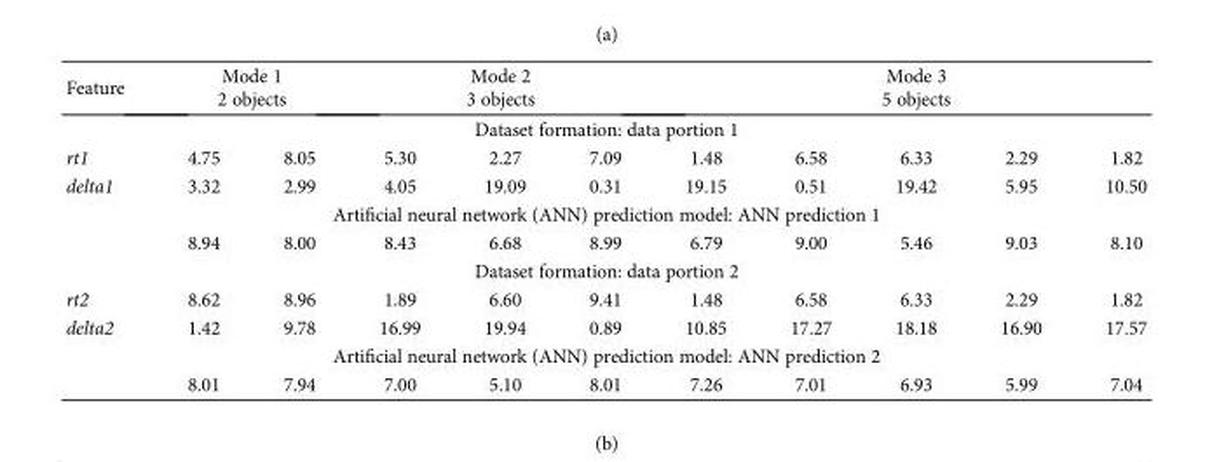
<table><thead><tr><td>Feature</td><td colspan="2">Mode 1 2 objects</td><td colspan="3">Mode 2 3 objects</td><td colspan="5">Mode 3 5 objects</td></tr><tr><td colspan="11">Dataset formation: data portion 1</td></tr><tr><td>rt1</td><td>4.75</td><td>8.05</td><td>5.30</td><td>2.27</td><td>7.09</td><td>1.48</td><td>6.58</td><td>6.33</td><td>2.29</td><td>1.82</td></tr></thead><tbody><tr><td>delta1</td><td>3.32</td><td>2.99</td><td>4.05</td><td>19.09</td><td>0.31</td><td>19.15</td><td>0.51</td><td>19.42</td><td>5.95</td><td>10.50</td></tr><tr><td colspan="11">Artificial neural network (ANN) prediction model: ANN prediction 1</td></tr><tr><td></td><td>8.94</td><td>8.00</td><td>8.43</td><td>6.68</td><td>8.99</td><td>6.79</td><td>9.00</td><td>5.46</td><td>9.03</td><td>8.10</td></tr><tr><td colspan="11">Dataset formation: data portion 2</td></tr><tr><td>rt2</td><td>8.62</td><td>8.96</td><td>1.89</td><td>6.60</td><td>9.41</td><td>1.48</td><td>6.58</td><td>6.33</td><td>2.29</td><td>1.82</td></tr><tr><td>delta2</td><td>1.42</td><td>9.78</td><td>16.99</td><td>19.94</td><td>0.89</td><td>10.85</td><td>17.27</td><td>18.18</td><td>16.90</td><td>17.57</td></tr><tr><td colspan="11">Artificial neural network (ANN) prediction model: ANN prediction 2</td></tr><tr><td></td><td>8.01</td><td>7.94</td><td>7.00</td><td>5.10</td><td>8.01</td><td>7.26</td><td>7.01</td><td>6.93</td><td>5.99</td><td>7.04</td></tr></tbody></table>